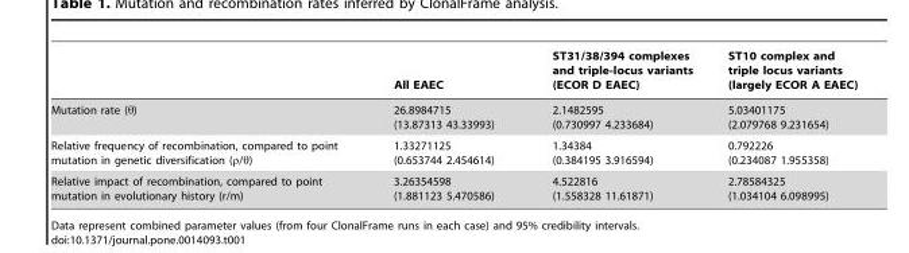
<table><thead><tr><td></td><td>All EAEC</td><td>ST31/38/394 complexes and triple-locus variants (ECOR D EAEC)</td><td>ST10 complex and triple locus variants (largely ECOR A EAEC)</td></tr></thead><tbody><tr><td>Mutation rate (θ)</td><td>26.8984715 (13.87313 43.33993)</td><td>2.1482595 (0.730997 4.233684)</td><td>5.03401175 (2.079768 9.231654)</td></tr><tr><td>Relative frequency of recombination, compared to point mutation in genetic diversification (ρ/θ)</td><td>1.33271125 (0.653744 2.454614)</td><td>1.34384 (0.384195 3.916594)</td><td>0.792226 (0.234087 1.955358)</td></tr><tr><td>Relative impact of recombination, compared to point mutation in evolutionary history (r/m)</td><td>3.26354598 (1.881123 5.470586)</td><td>4.522816 (1.558328 11.61871)</td><td>2.78584325 (1.034104 6.098995)</td></tr></tbody></table>